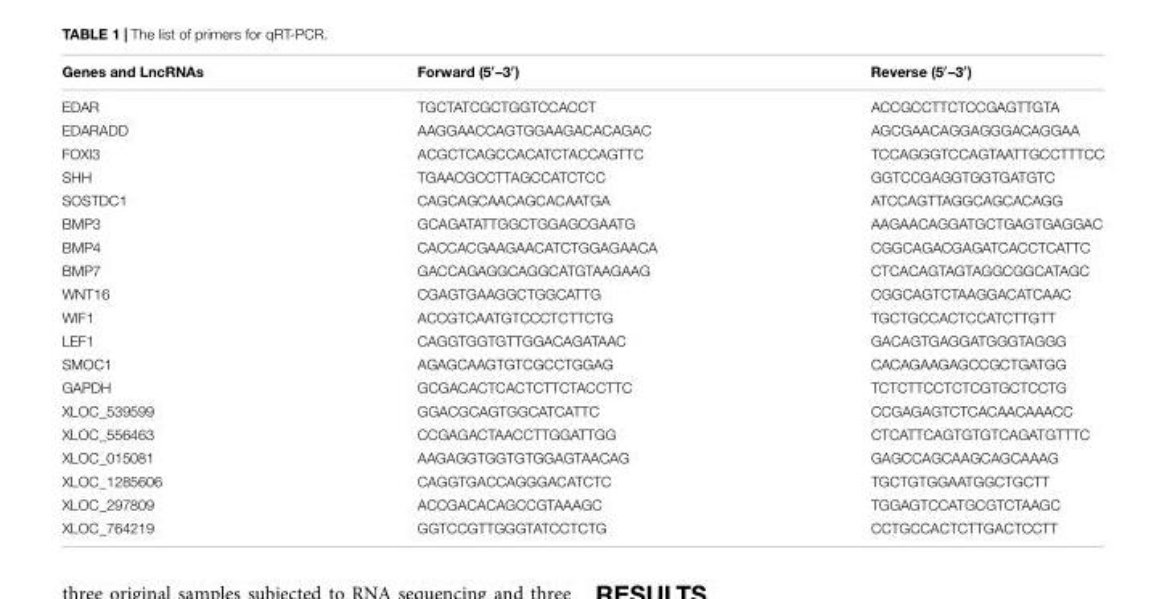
<table><thead><tr><td>Genes and LncRNAs</td><td>Forward (5′–3′)</td><td>Reverse (5′–3′)</td></tr></thead><tbody><tr><td>EDAR</td><td>TGCTATCGCTGGTCCACCT</td><td>ACCGCCTTCTCCGAGTTGTA</td></tr><tr><td>EDARADD</td><td>AAGGAACCAGTGGAAGACACAGAC</td><td>AGCGAACAGGAGGGACAGGAA</td></tr><tr><td>FOXI3</td><td>ACGCTCAGCCACATCTACCAGTTC</td><td>TCCAGGGTCCAGTAATTGCCTTTCC</td></tr><tr><td>SHH</td><td>TGAACGCCTTAGCCATCTCC</td><td>GGTCCGAGGTGGTGATGTC</td></tr><tr><td>SOSTDC1</td><td>CAGCAGCAACAGCACAATGA</td><td>ATCCAGTTAGGCAGCACAGG</td></tr><tr><td>BMP3</td><td>GCAGATATTGGCTGGAGCGAATG</td><td>AAGAACAGGATGCTGAGTGAGGAC</td></tr><tr><td>BMP4</td><td>CACCACGAAGAACATCTGGAGAACA</td><td>CGGCAGACGAGATCACCTCATTC</td></tr><tr><td>BMP7</td><td>GACCAGAGGCAGGCATGTAAGAAG</td><td>CTCACAGTAGTAGGCGGCATAGC</td></tr><tr><td>WNT16</td><td>CGAGTGAAGGCTGGCATTG</td><td>CGGCAGTCTAAGGACATCAAC</td></tr><tr><td>WIF1</td><td>ACCGTCAATGTCCCTCTTCTG</td><td>TGCTGCCACTCCATCTTGTT</td></tr><tr><td>LEF1</td><td>CAGGTGGTGTTGGACAGATAAC</td><td>GACAGTGAGGATGGGTAGGG</td></tr><tr><td>SMOC1</td><td>AGAGCAAGTGTCGCCTGGAG</td><td>CACAGAAGAGCCGCTGATGG</td></tr><tr><td>GAPDH</td><td>GCGACACTCACTCTTCTACCTTC</td><td>TCTCTTCCTCTCGTGCTCCTG</td></tr><tr><td>XLOC_539599</td><td>GGACGCAGTGGCATCATTC</td><td>CCGAGAGTCTCACAACAAACC</td></tr><tr><td>XLOC_556463</td><td>CCGAGACTAACCTTGGATTGG</td><td>CTCATTCAGTGTGTCAGATGTTTC</td></tr><tr><td>XLOC_015081</td><td>AAGAGGTGGTGTGGAGTAACAG</td><td>GAGCCAGCAAGCAGCAAAG</td></tr><tr><td>XLOC_1285606</td><td>CAGGTGACCAGGGACATCTC</td><td>TGCTGTGGAATGGCTGCTT</td></tr><tr><td>XLOC_297809</td><td>ACCGACACAGCCGTAAAGC</td><td>TGGAGTCCATGCGTCTAAGC</td></tr><tr><td>XLOC_764219</td><td>GGTCCGTTGGGTATCCTCTG</td><td>CCTGCCACTCTTGACTCCTT</td></tr></tbody></table>